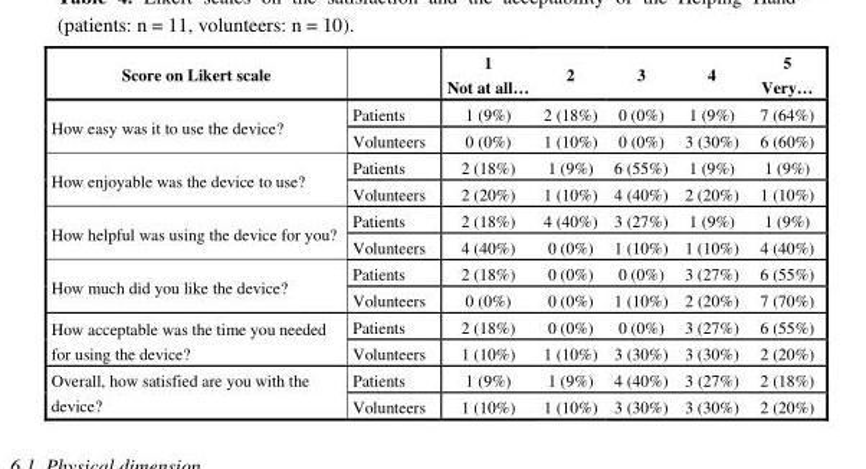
<table><thead><tr><td>Score on Likert scale</td><td></td><td>1 Not at all…</td><td>2</td><td>3</td><td>4</td><td>5 Very…</td></tr></thead><tbody><tr><td rowspan="2">How easy was it to use the device?</td><td>Patients</td><td>1 (9%)</td><td>2 (18%)</td><td>0 (0%)</td><td>1 (9%)</td><td>7 (64%)</td></tr><tr><td>Volunteers</td><td>0 (0%)</td><td>1 (10%)</td><td>0 (0%)</td><td>3 (30%)</td><td>6 (60%)</td></tr><tr><td rowspan="2">How enjoyable was the device to use?</td><td>Patients</td><td>2 (18%)</td><td>1 (9%)</td><td>6 (55%)</td><td>1 (9%)</td><td>1 (9%)</td></tr><tr><td>Volunteers</td><td>2 (20%)</td><td>1 (10%)</td><td>4 (40%)</td><td>2 (20%)</td><td>1 (10%)</td></tr><tr><td rowspan="2">How helpful was using the device for you?</td><td>Patients</td><td>2 (18%)</td><td>4 (40%)</td><td>3 (27%)</td><td>1 (9%)</td><td>1 (9%)</td></tr><tr><td>Volunteers</td><td>4 (40%)</td><td>0 (0%)</td><td>1 (10%)</td><td>1 (10%)</td><td>4 (40%)</td></tr><tr><td rowspan="2">How much did you like the device?</td><td>Patients</td><td>2 (18%)</td><td>0 (0%)</td><td>0 (0%)</td><td>3 (27%)</td><td>6 (55%)</td></tr><tr><td>Volunteers</td><td>0 (0%)</td><td>0 (0%)</td><td>1 (10%)</td><td>2 (20%)</td><td>7 (70%)</td></tr><tr><td rowspan="2">How acceptable was the time you needed for using the device?</td><td>Patients</td><td>2 (18%)</td><td>0 (0%)</td><td>0 (0%)</td><td>3 (27%)</td><td>6 (55%)</td></tr><tr><td>Volunteers</td><td>1 (10%)</td><td>1 (10%)</td><td>3 (30%)</td><td>3 (30%)</td><td>2 (20%)</td></tr><tr><td rowspan="2">Overall, how satisfied are you with the device?</td><td>Patients</td><td>1 (9%)</td><td>1 (9%)</td><td>4 (40%)</td><td>3 (27%)</td><td>2 (18%)</td></tr><tr><td>Volunteers</td><td>1 (10%)</td><td>1 (10%)</td><td>3 (30%)</td><td>3 (30%)</td><td>2 (20%)</td></tr></tbody></table>